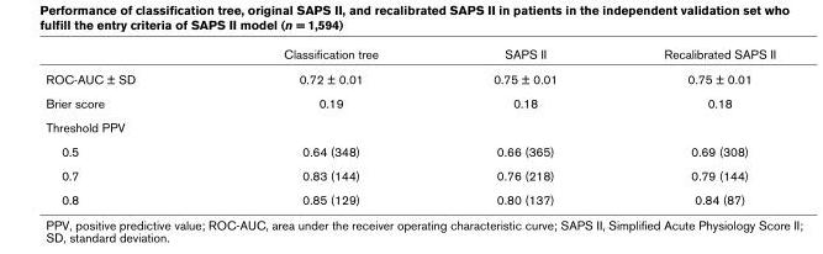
<table><thead><tr><td></td><td>Classification tree</td><td>SAPS II</td><td>Recalibrated SAPS II</td></tr></thead><tbody><tr><td>ROC-AUC ± SD</td><td>0.72 ± 0.01</td><td>0.75 ± 0.01</td><td>0.75 ± 0.01</td></tr><tr><td>Brier score</td><td>0.19</td><td>0.18</td><td>0.18</td></tr><tr><td colspan="4">Threshold PPV</td></tr><tr><td>0.5</td><td>0.64 (348)</td><td>0.66 (365)</td><td>0.69 (308)</td></tr><tr><td>0.7</td><td>0.83 (144)</td><td>0.76 (218)</td><td>0.79 (144)</td></tr><tr><td>0.8</td><td>0.85 (129)</td><td>0.80 (137)</td><td>0.84 (87)</td></tr></tbody></table>